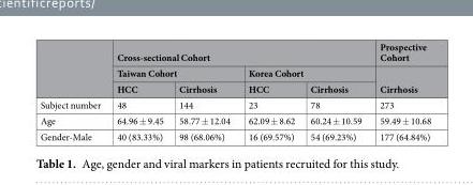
<table><thead><tr><td rowspan="3"></td><td colspan="4">Cross-sectional Cohort</td><td rowspan="3">Prospective Cohort Cirrhosis</td></tr><tr><td colspan="2">Taiwan Cohort</td><td colspan="2">Korea Cohort</td></tr><tr><td>HCC</td><td>Cirrhosis</td><td>HCC</td><td>Cirrhosis</td></tr></thead><tbody><tr><td>Subject number</td><td>48</td><td>144</td><td>23</td><td>78</td><td>273</td></tr><tr><td>Age</td><td>64.96 ± 9.45</td><td>58.77 ± 12.04</td><td>62.09 ± 8.62</td><td>60.24 ± 10.59</td><td>59.49 ± 10.68</td></tr><tr><td>Gender-Male</td><td>40 (83.33%)</td><td>98 (68.06%)</td><td>16 (69.57%)</td><td>54 (69.23%)</td><td>177 (64.84%)</td></tr></tbody></table>